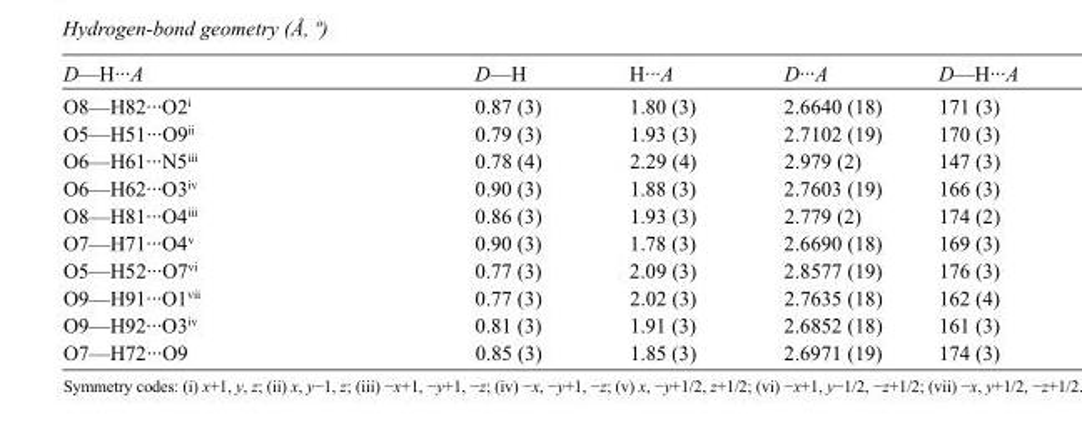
<table><tbody><tr><td>D—H···A</td><td>D—H</td><td>H···A</td><td>D···A</td><td>D—H···A</td></tr><tr><td>O8—H82···O2<sup>i</sup></td><td>0.87 (3)</td><td>1.80 (3)</td><td>2.6640 (18)</td><td>171 (3)</td></tr><tr><td>O5—H51···O9<sup>ii</sup></td><td>0.79 (3)</td><td>1.93 (3)</td><td>2.7102 (19)</td><td>170 (3)</td></tr><tr><td>O6—H61···N5<sup>iii</sup></td><td>0.78 (4)</td><td>2.29 (4)</td><td>2.979 (2)</td><td>147 (3)</td></tr><tr><td>O6—H62···O3<sup>iv</sup></td><td>0.90 (3)</td><td>1.88 (3)</td><td>2.7603 (19)</td><td>166 (3)</td></tr><tr><td>O8—H81···O4<sup>iii</sup></td><td>0.86 (3)</td><td>1.93 (3)</td><td>2.779 (2)</td><td>174 (2)</td></tr><tr><td>O7—H71···O4<sup>v</sup></td><td>0.90 (3)</td><td>1.78 (3)</td><td>2.6690 (18)</td><td>169 (3)</td></tr><tr><td>O5—H52···O7<sup>vi</sup></td><td>0.77 (3)</td><td>2.09 (3)</td><td>2.8577 (19)</td><td>176 (3)</td></tr><tr><td>O9—H91···O1<sup>vii</sup></td><td>0.77 (3)</td><td>2.02 (3)</td><td>2.7635 (18)</td><td>162 (4)</td></tr><tr><td>O9—H92···O3<sup>iv</sup></td><td>0.81 (3)</td><td>1.91 (3)</td><td>2.6852 (18)</td><td>161 (3)</td></tr><tr><td>O7—H72···O9</td><td>0.85 (3)</td><td>1.85 (3)</td><td>2.6971 (19)</td><td>174 (3)</td></tr></tbody></table>